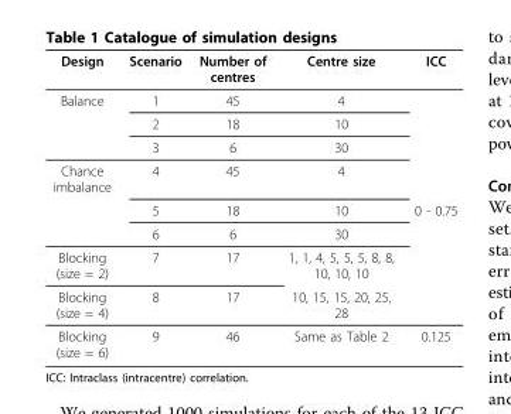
<table><thead><tr><td>Design</td><td>Scenario</td><td>Number of centres</td><td>Centre size</td><td>ICC</td></tr></thead><tbody><tr><td rowspan="3">Balance</td><td>1</td><td>45</td><td>4</td><td></td></tr><tr><td>2</td><td>18</td><td>10</td><td></td></tr><tr><td>3</td><td>6</td><td>30</td><td></td></tr><tr><td rowspan="3">Chance imbalance</td><td>4</td><td>45</td><td>4</td><td></td></tr><tr><td>5</td><td>18</td><td>10</td><td>0 - 0.75</td></tr><tr><td>6</td><td>6</td><td>30</td><td></td></tr><tr><td>Blocking (size = 2)</td><td>7</td><td>17</td><td>1, 1, 4, 5, 5, 5, 8, 8, 10, 10, 10</td><td></td></tr><tr><td>Blocking (size = 4)</td><td>8</td><td>17</td><td>10, 15, 15, 20, 25, 28</td><td></td></tr><tr><td>Blocking (size = 6)</td><td>9</td><td>46</td><td>Same as Table 2</td><td>0.125</td></tr></tbody></table>